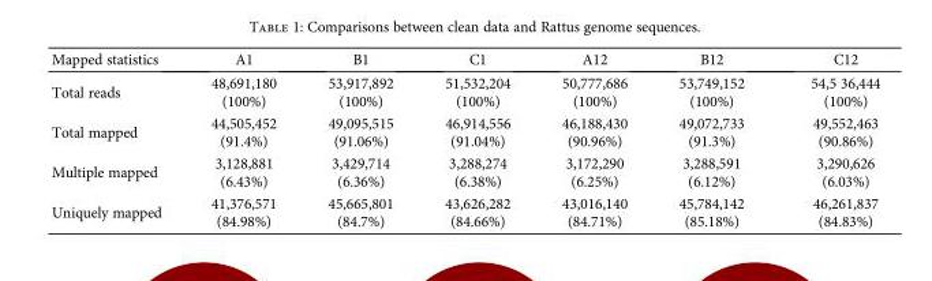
<table><thead><tr><td>Mapped statistics</td><td>A1</td><td>B1</td><td>C1</td><td>A12</td><td>B12</td><td>C12</td></tr></thead><tbody><tr><td>Total reads</td><td>48,691,180 (100%)</td><td>53,917,892 (100%)</td><td>51,532,204 (100%)</td><td>50,777,686 (100%)</td><td>53,749,152 (100%)</td><td>54,5 36,444 (100%)</td></tr><tr><td>Total mapped</td><td>44,505,452 (91.4%)</td><td>49,095,515 (91.06%)</td><td>46,914,556 (91.04%)</td><td>46,188,430 (90.96%)</td><td>49,072,733 (91.3%)</td><td>49,552,463 (90.86%)</td></tr><tr><td>Multiple mapped</td><td>3,128,881 (6.43%)</td><td>3,429,714 (6.36%)</td><td>3,288,274 (6.38%)</td><td>3,172,290 (6.25%)</td><td>3,288,591 (6.12%)</td><td>3,290,626 (6.03%)</td></tr><tr><td>Uniquely mapped</td><td>41,376,571 (84.98%)</td><td>45,665,801 (84.7%)</td><td>43,626,282 (84.66%)</td><td>43,016,140 (84.71%)</td><td>45,784,142 (85.18%)</td><td>46,261,837 (84.83%)</td></tr></tbody></table>